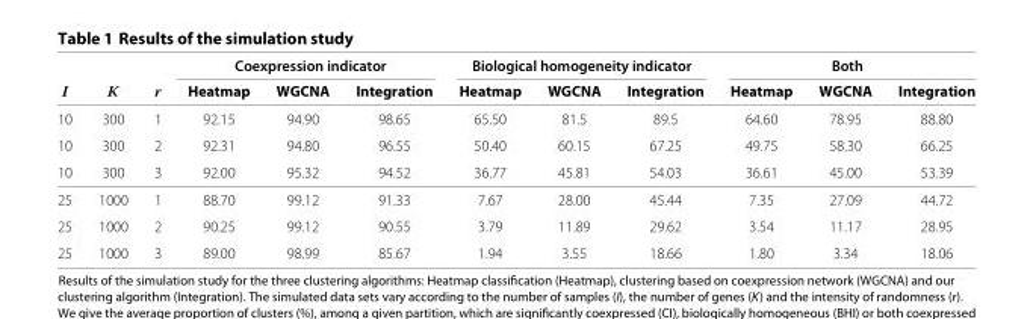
<table><thead><tr><td rowspan="2">I</td><td rowspan="2">K</td><td rowspan="2">r</td><td colspan="3">Coexpression indicator</td><td colspan="3">Biological homogeneity indicator</td><td colspan="3">Both</td></tr><tr><td>Heatmap</td><td>WGCNA</td><td>Integration</td><td>Heatmap</td><td>WGCNA</td><td>Integration</td><td>Heatmap</td><td>WGCNA</td><td>Integration</td></tr></thead><tbody><tr><td>10</td><td>300</td><td>1</td><td>92.15</td><td>94.90</td><td>98.65</td><td>65.50</td><td>81.5</td><td>89.5</td><td>64.60</td><td>78.95</td><td>88.80</td></tr><tr><td>10</td><td>300</td><td>2</td><td>92.31</td><td>94.80</td><td>96.55</td><td>50.40</td><td>60.15</td><td>67.25</td><td>49.75</td><td>58.30</td><td>66.25</td></tr><tr><td>10</td><td>300</td><td>3</td><td>92.00</td><td>95.32</td><td>94.52</td><td>36.77</td><td>45.81</td><td>54.03</td><td>36.61</td><td>45.00</td><td>53.39</td></tr><tr><td>25</td><td>1000</td><td>1</td><td>88.70</td><td>99.12</td><td>91.33</td><td>7.67</td><td>28.00</td><td>45.44</td><td>7.35</td><td>27.09</td><td>44.72</td></tr><tr><td>25</td><td>1000</td><td>2</td><td>90.25</td><td>99.12</td><td>90.55</td><td>3.79</td><td>11.89</td><td>29.62</td><td>3.54</td><td>11.17</td><td>28.95</td></tr><tr><td>25</td><td>1000</td><td>3</td><td>89.00</td><td>98.99</td><td>85.67</td><td>1.94</td><td>3.55</td><td>18.66</td><td>1.80</td><td>3.34</td><td>18.06</td></tr></tbody></table>